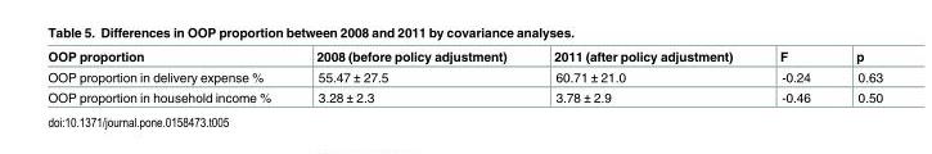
<table><thead><tr><td>OOP proportion</td><td>2008 (before policy adjustment)</td><td>2011 (after policy adjustment)</td><td>F</td><td>p</td></tr></thead><tbody><tr><td>OOP proportion in delivery expense %</td><td>55.47 ± 27.5</td><td>60.71 ± 21.0</td><td>-0.24</td><td>0.63</td></tr><tr><td>OOP proportion in household income %</td><td>3.28 ± 2.3</td><td>3.78 ± 2.9</td><td>-0.46</td><td>0.50</td></tr></tbody></table>